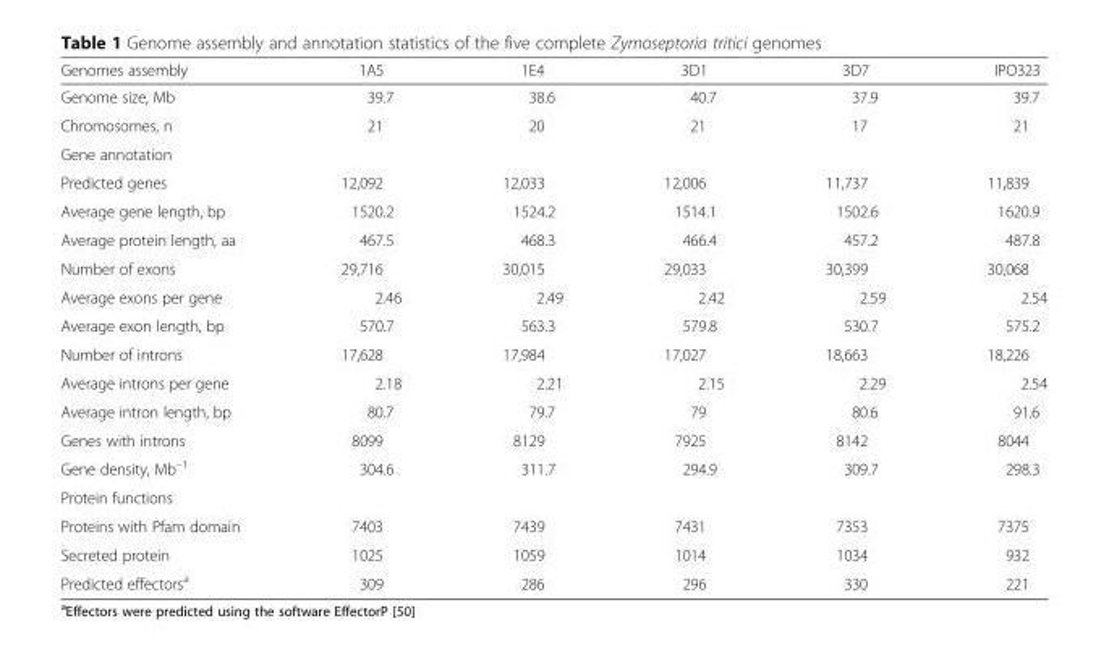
<table><thead><tr><td>Genomes assembly</td><td>1A5</td><td>1E4</td><td>3D1</td><td>3D7</td><td>IPO323</td></tr></thead><tbody><tr><td>Genome size, Mb</td><td>39.7</td><td>38.6</td><td>40.7</td><td>37.9</td><td>39.7</td></tr><tr><td>Chromosomes, n</td><td>21</td><td>20</td><td>21</td><td>17</td><td>21</td></tr><tr><td colspan="6">Gene annotation</td></tr><tr><td>Predicted genes</td><td>12,092</td><td>12,033</td><td>12,006</td><td>11,737</td><td>11,839</td></tr><tr><td>Average gene length, bp</td><td>1520.2</td><td>1524.2</td><td>1514.1</td><td>1502.6</td><td>1620.9</td></tr><tr><td>Average protein length, aa</td><td>467.5</td><td>468.3</td><td>466.4</td><td>457.2</td><td>487.8</td></tr><tr><td>Number of exons</td><td>29,716</td><td>30,015</td><td>29,033</td><td>30,399</td><td>30,068</td></tr><tr><td>Average exons per gene</td><td>2.46</td><td>2.49</td><td>2.42</td><td>2.59</td><td>2.54</td></tr><tr><td>Average exon length, bp</td><td>570.7</td><td>563.3</td><td>579.8</td><td>530.7</td><td>575.2</td></tr><tr><td>Number of introns</td><td>17,628</td><td>17,984</td><td>17,027</td><td>18,663</td><td>18,226</td></tr><tr><td>Average introns per gene</td><td>2.18</td><td>2.21</td><td>2.15</td><td>2.29</td><td>2.54</td></tr><tr><td>Average intron length, bp</td><td>80.7</td><td>79.7</td><td>79</td><td>80.6</td><td>91.6</td></tr><tr><td>Genes with introns</td><td>8099</td><td>8129</td><td>7925</td><td>8142</td><td>8044</td></tr><tr><td>Gene density, Mb<sup>–1</sup></td><td>304.6</td><td>311.7</td><td>294.9</td><td>309.7</td><td>298.3</td></tr><tr><td colspan="6">Protein functions</td></tr><tr><td>Proteins with Pfam domain</td><td>7403</td><td>7439</td><td>7431</td><td>7353</td><td>7375</td></tr><tr><td>Secreted protein</td><td>1025</td><td>1059</td><td>1014</td><td>1034</td><td>932</td></tr><tr><td>Predicted effectors<sup>a</sup></td><td>309</td><td>286</td><td>296</td><td>330</td><td>221</td></tr></tbody></table>